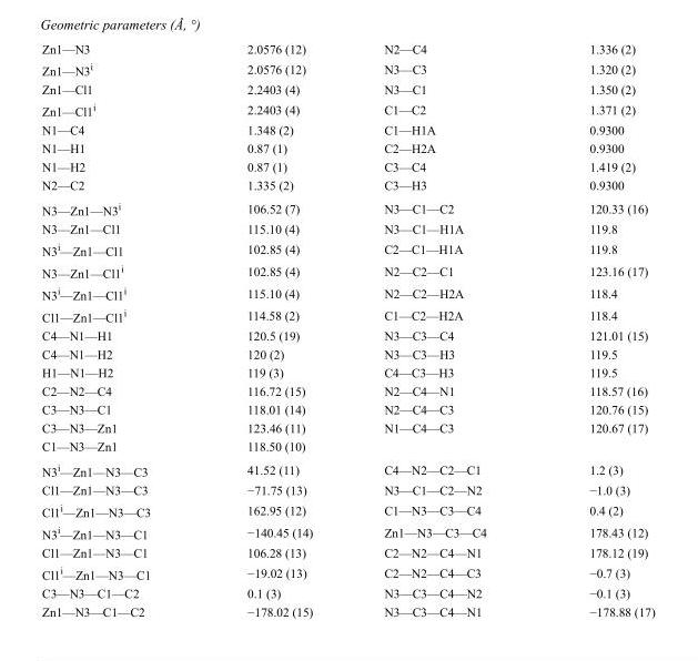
<table><tbody><tr><td>Zn1—N3</td><td>2.0576 (12)</td><td>N2—C4</td><td>1.336 (2)</td></tr><tr><td>Zn1—N3<sup>i</sup></td><td>2.0576 (12)</td><td>N3—C3</td><td>1.320 (2)</td></tr><tr><td>Zn1—Cl1</td><td>2.2403 (4)</td><td>N3—C1</td><td>1.350 (2)</td></tr><tr><td>Zn1—Cl1<sup>i</sup></td><td>2.2403 (4)</td><td>C1—C2</td><td>1.371 (2)</td></tr><tr><td>N1—C4</td><td>1.348 (2)</td><td>C1—H1A</td><td>0.9300</td></tr><tr><td>N1—H1</td><td>0.87 (1)</td><td>C2—H2A</td><td>0.9300</td></tr><tr><td>N1—H2</td><td>0.87 (1)</td><td>C3—C4</td><td>1.419 (2)</td></tr><tr><td>N2—C2</td><td>1.335 (2)</td><td>C3—H3</td><td>0.9300</td></tr><tr><td>N3—Zn1—N3<sup>i</sup></td><td>106.52 (7)</td><td>N3—C1—C2</td><td>120.33 (16)</td></tr><tr><td>N3—Zn1—Cl1</td><td>115.10 (4)</td><td>N3—C1—H1A</td><td>119.8</td></tr><tr><td>N3<sup>i</sup>—Zn1—Cl1</td><td>102.85 (4)</td><td>C2—C1—H1A</td><td>119.8</td></tr><tr><td>N3—Zn1—Cl1<sup>i</sup></td><td>102.85 (4)</td><td>N2—C2—C1</td><td>123.16 (17)</td></tr><tr><td>N3<sup>i</sup>—Zn1—Cl1<sup>i</sup></td><td>115.10 (4)</td><td>N2—C2—H2A</td><td>118.4</td></tr><tr><td>Cl1—Zn1—Cl1<sup>i</sup></td><td>114.58 (2)</td><td>C1—C2—H2A</td><td>118.4</td></tr><tr><td>C4—N1—H1</td><td>120.5 (19)</td><td>N3—C3—C4</td><td>121.01 (15)</td></tr><tr><td>C4—N1—H2</td><td>120 (2)</td><td>N3—C3—H3</td><td>119.5</td></tr><tr><td>H1—N1—H2</td><td>119 (3)</td><td>C4—C3—H3</td><td>119.5</td></tr><tr><td>C2—N2—C4</td><td>116.72 (15)</td><td>N2—C4—N1</td><td>118.57 (16)</td></tr><tr><td>C3—N3—C1</td><td>118.01 (14)</td><td>N2—C4—C3</td><td>120.76 (15)</td></tr><tr><td>C3—N3—Zn1</td><td>123.46 (11)</td><td>N1—C4—C3</td><td>120.67 (17)</td></tr><tr><td>C1—N3—Zn1</td><td>118.50 (10)</td><td></td><td></td></tr><tr><td>N3<sup>i</sup>—Zn1—N3—C3</td><td>41.52 (11)</td><td>C4—N2—C2—C1</td><td>1.2 (3)</td></tr><tr><td>Cl1—Zn1—N3—C3</td><td>−71.75 (13)</td><td>N3—C1—C2—N2</td><td>−1.0 (3)</td></tr><tr><td>Cl1<sup>i</sup>—Zn1—N3—C3</td><td>162.95 (12)</td><td>C1—N3—C3—C4</td><td>0.4 (2)</td></tr><tr><td>N3<sup>i</sup>—Zn1—N3—C1</td><td>−140.45 (14)</td><td>Zn1—N3—C3—C4</td><td>178.43 (12)</td></tr><tr><td>Cl1—Zn1—N3—C1</td><td>106.28 (13)</td><td>C2—N2—C4—N1</td><td>178.12 (19)</td></tr><tr><td>Cl1<sup>i</sup>—Zn1—N3—C1</td><td>−19.02 (13)</td><td>C2—N2—C4—C3</td><td>−0.7 (3)</td></tr><tr><td>C3—N3—C1—C2</td><td>0.1 (3)</td><td>N3—C3—C4—N2</td><td>−0.1 (3)</td></tr><tr><td>Zn1—N3—C1—C2</td><td>−178.02 (15)</td><td>N3—C3—C4—N1</td><td>−178.88 (17)</td></tr></tbody></table>